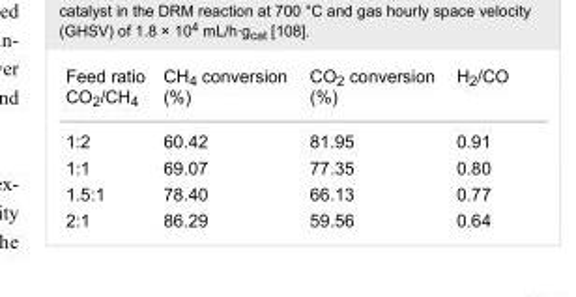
<table><tbody><tr><td>Feed ratio CO<sub>2</sub>/CH<sub>4</sub></td><td>CH<sub>4</sub> conversion (%)</td><td>CO<sub>2</sub> conversion (%)</td><td>H<sub>2</sub>/CO</td></tr><tr><td>1:2</td><td>60.42</td><td>81.95</td><td>0.91</td></tr><tr><td>1:1</td><td>69.07</td><td>77.35</td><td>0.80</td></tr><tr><td>1.5:1</td><td>78.40</td><td>66.13</td><td>0.77</td></tr><tr><td>2:1</td><td>86.29</td><td>59.56</td><td>0.64</td></tr></tbody></table>